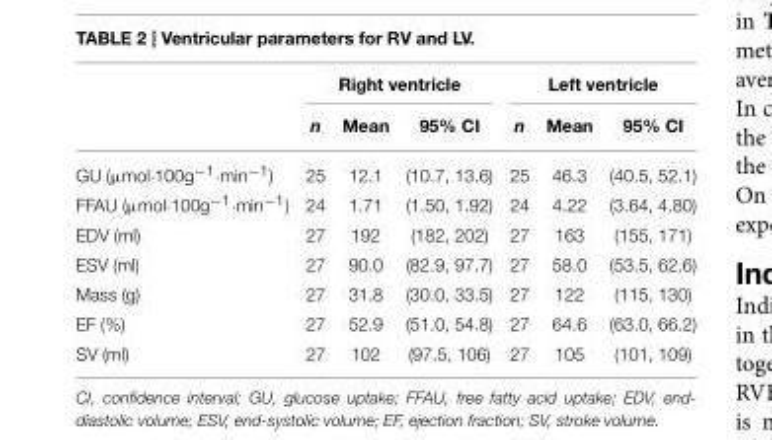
<table><thead><tr><td rowspan="2"></td><td colspan="3">Right ventricle</td><td colspan="3">Left ventricle</td></tr><tr><td>n</td><td>Mean</td><td>95% CI</td><td>n</td><td>Mean</td><td>95% CI</td></tr></thead><tbody><tr><td>GU (µmol·100g<sup>−1</sup>·min<sup>−1</sup>)</td><td>25</td><td>12.1</td><td>(10.7, 13.6)</td><td>25</td><td>46.3</td><td>(40.5, 52.1)</td></tr><tr><td>FFAU (µmol·100g<sup>−1</sup>·min<sup>−1</sup>)</td><td>24</td><td>1.71</td><td>(1.50, 1.92)</td><td>24</td><td>4.22</td><td>(3.64, 4.80)</td></tr><tr><td>EDV (ml)</td><td>27</td><td>192</td><td>(182, 202)</td><td>27</td><td>163</td><td>(155, 171)</td></tr><tr><td>ESV (ml)</td><td>27</td><td>90.0</td><td>(82.9, 97.7)</td><td>27</td><td>58.0</td><td>(53.5, 62.6)</td></tr><tr><td>Mass (g)</td><td>27</td><td>31.8</td><td>(30.0, 33.5)</td><td>27</td><td>122</td><td>(115, 130)</td></tr><tr><td>EF (%)</td><td>27</td><td>52.9</td><td>(51.0, 54.8)</td><td>27</td><td>64.6</td><td>(63.0, 66.2)</td></tr><tr><td>SV (ml)</td><td>27</td><td>102</td><td>(97.5, 106)</td><td>27</td><td>105</td><td>(101, 109)</td></tr></tbody></table>